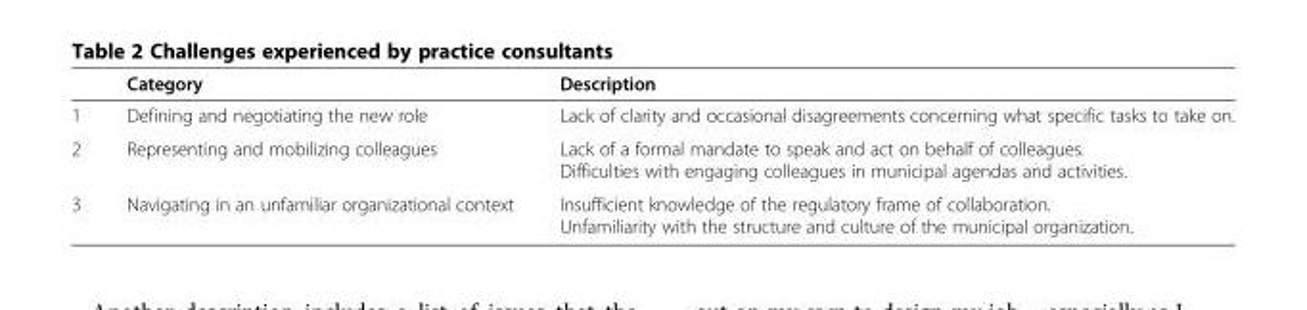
<table><thead><tr><td></td><td>Category</td><td>Description</td></tr></thead><tbody><tr><td>1</td><td>Defining and negotiating the new role</td><td>Lack of clarity and occasional disagreements concerning what specific tasks to take on.</td></tr><tr><td>2</td><td>Representing and mobilizing colleagues</td><td>Lack of a formal mandate to speak and act on behalf of colleagues. Difficulties with engaging colleagues in municipal agendas and activities.</td></tr><tr><td>3</td><td>Navigating in an unfamiliar organizational context</td><td>Insufficient knowledge of the regulatory frame of collaboration. Unfamiliarity with the structure and culture of the municipal organization.</td></tr></tbody></table>